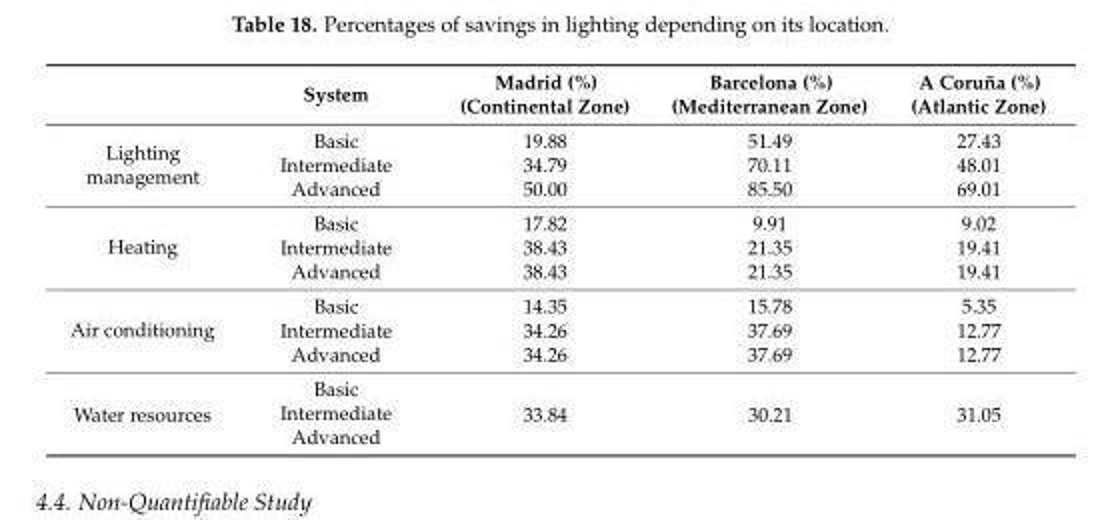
<table><thead><tr><td></td><td>System</td><td>Madrid (%) (Continental Zone)</td><td>Barcelona (%) (Mediterranean Zone)</td><td>A Coruña (%) (Atlantic Zone)</td></tr></thead><tbody><tr><td rowspan="3">Lighting management</td><td>Basic</td><td>19.88</td><td>51.49</td><td>27.43</td></tr><tr><td>Intermediate</td><td>34.79</td><td>70.11</td><td>48.01</td></tr><tr><td>Advanced</td><td>50.00</td><td>85.50</td><td>69.01</td></tr><tr><td rowspan="3">Heating</td><td>Basic</td><td>17.82</td><td>9.91</td><td>9.02</td></tr><tr><td>Intermediate</td><td>38.43</td><td>21.35</td><td>19.41</td></tr><tr><td>Advanced</td><td>38.43</td><td>21.35</td><td>19.41</td></tr><tr><td rowspan="3">Air conditioning</td><td>Basic</td><td>14.35</td><td>15.78</td><td>5.35</td></tr><tr><td>Intermediate</td><td>34.26</td><td>37.69</td><td>12.77</td></tr><tr><td>Advanced</td><td>34.26</td><td>37.69</td><td>12.77</td></tr><tr><td rowspan="3">Water resources</td><td>Basic</td><td rowspan="3">33.84</td><td rowspan="3">30.21</td><td rowspan="3">31.05</td></tr><tr><td>Intermediate</td></tr><tr><td>Advanced</td></tr></tbody></table>